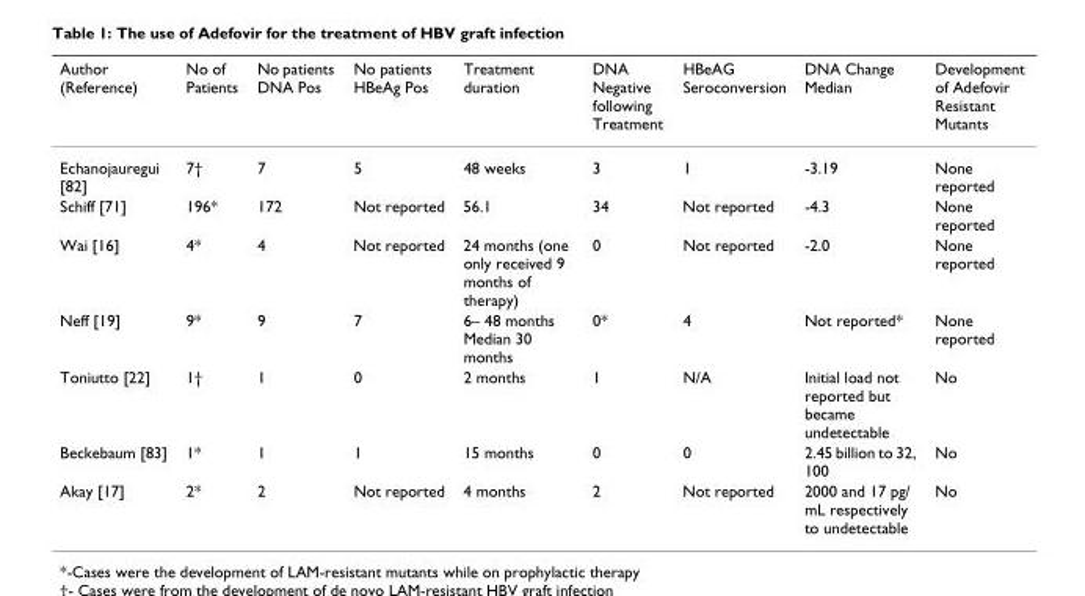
<table><thead><tr><td>Author (Reference)</td><td>No of Patients</td><td>No patients DNA Pos</td><td>No patients HBeAg Pos</td><td>Treatment duration</td><td>DNA Negative following Treatment</td><td>HBeAG Seroconversion</td><td>DNA Change Median</td><td>Development of Adefovir Resistant Mutants</td></tr></thead><tbody><tr><td>Echanojauregui [82]</td><td>7†</td><td>7</td><td>5</td><td>48 weeks</td><td>3</td><td>1</td><td>-3.19</td><td>None reported</td></tr><tr><td>Schiff [71]</td><td>196*</td><td>172</td><td>Not reported</td><td>56.1</td><td>34</td><td>Not reported</td><td>-4.3</td><td>None reported</td></tr><tr><td>Wai [16]</td><td>4*</td><td>4</td><td>Not reported</td><td>24 months (one only received 9 months of therapy)</td><td>0</td><td>Not reported</td><td>-2.0</td><td>None reported</td></tr><tr><td>Neff [19]</td><td>9*</td><td>9</td><td>7</td><td>6– 48 months Median 30 months</td><td>0*</td><td>4</td><td>Not reported*</td><td>None reported</td></tr><tr><td>Toniutto [22]</td><td>1†</td><td>1</td><td>0</td><td>2 months</td><td>1</td><td>N/A</td><td>Initial load not reported but became undetectable</td><td>No</td></tr><tr><td>Beckebaum [83]</td><td>1*</td><td>1</td><td>1</td><td>15 months</td><td>0</td><td>0</td><td>2.45 billion to 32, 100</td><td>No</td></tr><tr><td>Akay [17]</td><td>2*</td><td>2</td><td>Not reported</td><td>4 months</td><td>2</td><td>Not reported</td><td>2000 and 17 pg/ mL respectively to undetectable</td><td>No</td></tr></tbody></table>